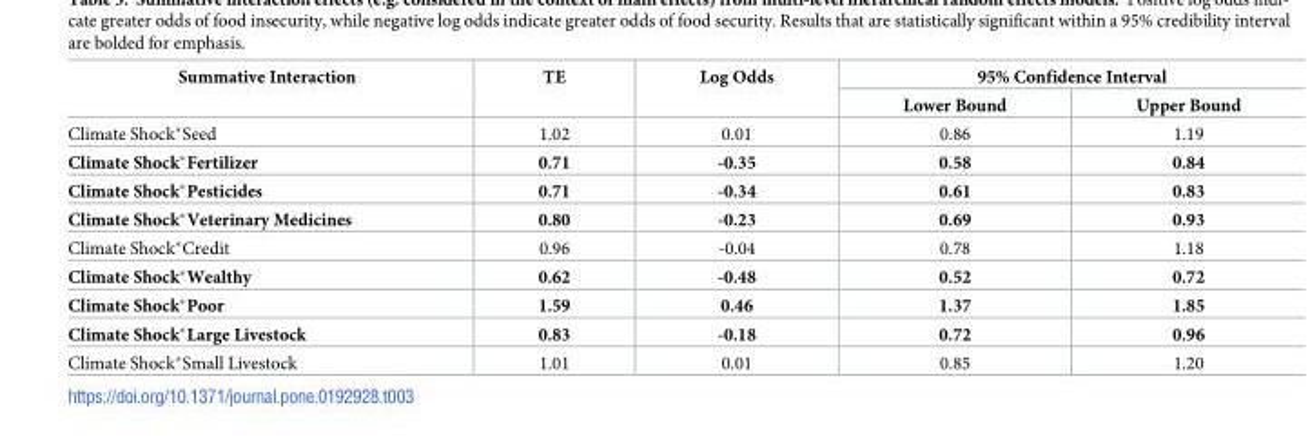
<table><thead><tr><td rowspan="2">Summative Interaction</td><td rowspan="2">TE</td><td rowspan="2">Log Odds</td><td colspan="2">95% Confidence Interval</td></tr><tr><td>Lower Bound</td><td>Upper Bound</td></tr></thead><tbody><tr><td>Climate Shock*Seed</td><td>1.02</td><td>0.01</td><td>0.86</td><td>1.19</td></tr><tr><td>Climate Shock*Fertilizer</td><td>0.71</td><td>-0.35</td><td>0.58</td><td>0.84</td></tr><tr><td>Climate Shock*Pesticides</td><td>0.71</td><td>-0.34</td><td>0.61</td><td>0.83</td></tr><tr><td>Climate Shock*Veterinary Medicines</td><td>0.80</td><td>-0.23</td><td>0.69</td><td>0.93</td></tr><tr><td>Climate Shock*Credit</td><td>0.96</td><td>-0.04</td><td>0.78</td><td>1.18</td></tr><tr><td>Climate Shock*Wealthy</td><td>0.62</td><td>-0.48</td><td>0.52</td><td>0.72</td></tr><tr><td>Climate Shock*Poor</td><td>1.59</td><td>0.46</td><td>1.37</td><td>1.85</td></tr><tr><td>Climate Shock*Large Livestock</td><td>0.83</td><td>-0.18</td><td>0.72</td><td>0.96</td></tr><tr><td>Climate Shock*Small Livestock</td><td>1.01</td><td>0.01</td><td>0.85</td><td>1.20</td></tr></tbody></table>